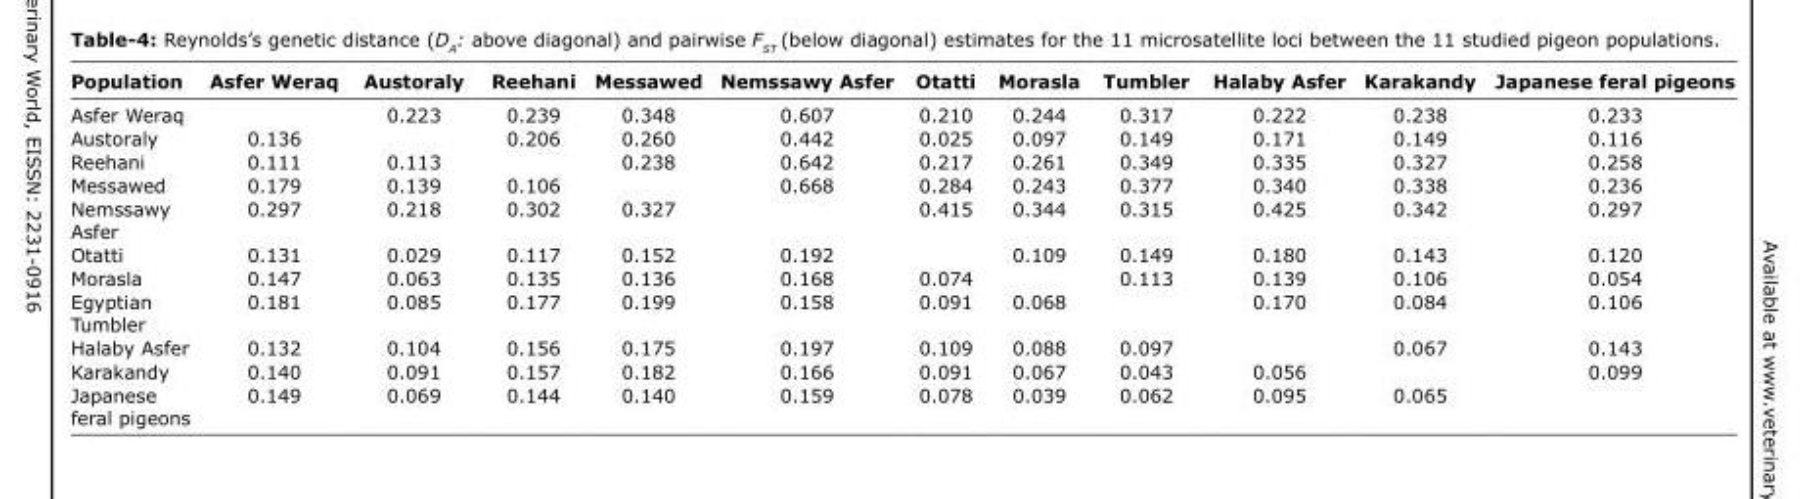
<table><thead><tr><td>Population</td><td>Asfer Weraq</td><td>Austoraly</td><td>Reehani</td><td>Messawed</td><td>Nemssawy Asfer</td><td>Otatti</td><td>Morasla</td><td>Tumbler</td><td>Halaby Asfer</td><td>Karakandy</td><td>Japanese feral pigeons</td></tr></thead><tbody><tr><td>Asfer Weraq</td><td></td><td>0.223</td><td>0.239</td><td>0.348</td><td>0.607</td><td>0.210</td><td>0.244</td><td>0.317</td><td>0.222</td><td>0.238</td><td>0.233</td></tr><tr><td>Austoraly</td><td>0.136</td><td></td><td>0.206</td><td>0.260</td><td>0.442</td><td>0.025</td><td>0.097</td><td>0.149</td><td>0.171</td><td>0.149</td><td>0.116</td></tr><tr><td>Reehani</td><td>0.111</td><td>0.113</td><td></td><td>0.238</td><td>0.642</td><td>0.217</td><td>0.261</td><td>0.349</td><td>0.335</td><td>0.327</td><td>0.258</td></tr><tr><td>Messawed</td><td>0.179</td><td>0.139</td><td>0.106</td><td></td><td>0.668</td><td>0.284</td><td>0.243</td><td>0.377</td><td>0.340</td><td>0.338</td><td>0.236</td></tr><tr><td>Nemssawy Asfer</td><td>0.297</td><td>0.218</td><td>0.302</td><td>0.327</td><td></td><td>0.415</td><td>0.344</td><td>0.315</td><td>0.425</td><td>0.342</td><td>0.297</td></tr><tr><td>Otatti</td><td>0.131</td><td>0.029</td><td>0.117</td><td>0.152</td><td>0.192</td><td></td><td>0.109</td><td>0.149</td><td>0.180</td><td>0.143</td><td>0.120</td></tr><tr><td>Morasla</td><td>0.147</td><td>0.063</td><td>0.135</td><td>0.136</td><td>0.168</td><td>0.074</td><td></td><td>0.113</td><td>0.139</td><td>0.106</td><td>0.054</td></tr><tr><td>Egyptian Tumbler</td><td>0.181</td><td>0.085</td><td>0.177</td><td>0.199</td><td>0.158</td><td>0.091</td><td>0.068</td><td></td><td>0.170</td><td>0.084</td><td>0.106</td></tr><tr><td>Halaby Asfer</td><td>0.132</td><td>0.104</td><td>0.156</td><td>0.175</td><td>0.197</td><td>0.109</td><td>0.088</td><td>0.097</td><td></td><td>0.067</td><td>0.143</td></tr><tr><td>Karakandy</td><td>0.140</td><td>0.091</td><td>0.157</td><td>0.182</td><td>0.166</td><td>0.091</td><td>0.067</td><td>0.043</td><td>0.056</td><td></td><td>0.099</td></tr><tr><td>Japanese feral pigeons</td><td>0.149</td><td>0.069</td><td>0.144</td><td>0.140</td><td>0.159</td><td>0.078</td><td>0.039</td><td>0.062</td><td>0.095</td><td>0.065</td><td></td></tr></tbody></table>